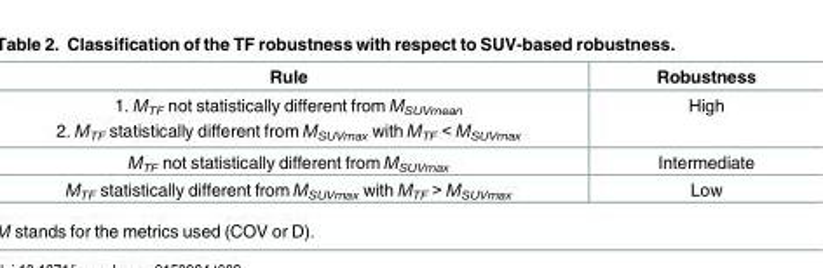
<table><thead><tr><td>Rule</td><td>Robustness</td></tr></thead><tbody><tr><td>1. MTF not statistically different from MSUVmean MTF statistically different from MSUVmax with MTF &lt; MSUVmax</td><td>High</td></tr><tr><td>M<sub>TF</sub> not statistically different from M<sub>SUVmax</sub></td><td>Intermediate</td></tr><tr><td>M<sub>TF</sub> statistically different from M<sub>SUVmax</sub> with M<sub>TF</sub> &gt; M<sub>SUVmax</sub></td><td>Low</td></tr></tbody></table>